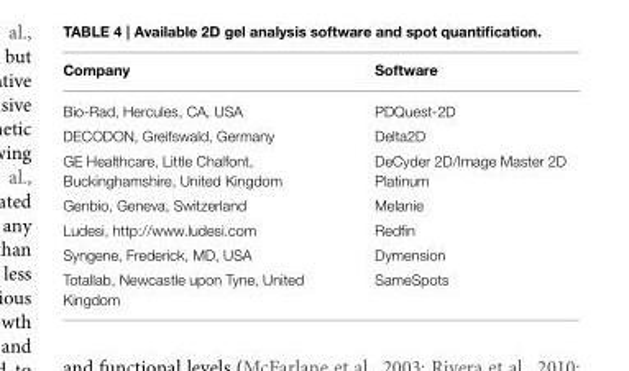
<table><thead><tr><td>Company</td><td>Software</td></tr></thead><tbody><tr><td>Bio-Rad, Hercules, CA, USA</td><td>PDQuest-2D</td></tr><tr><td>DECODON, Greifswald, Germany</td><td>Delta2D</td></tr><tr><td>GE Healthcare, Little Chalfont, Buckinghamshire, United Kingdom</td><td>DeCyder 2D/Image Master 2D Platinum</td></tr><tr><td>Genbio, Geneva, Switzerland</td><td>Melanie</td></tr><tr><td>Ludesi, http://www.ludesi.com</td><td>Redfin</td></tr><tr><td>Syngene, Frederick, MD, USA</td><td>Dymension</td></tr><tr><td>Totallab, Newcastle upon Tyne, United Kingdom</td><td>SameSpots</td></tr></tbody></table>